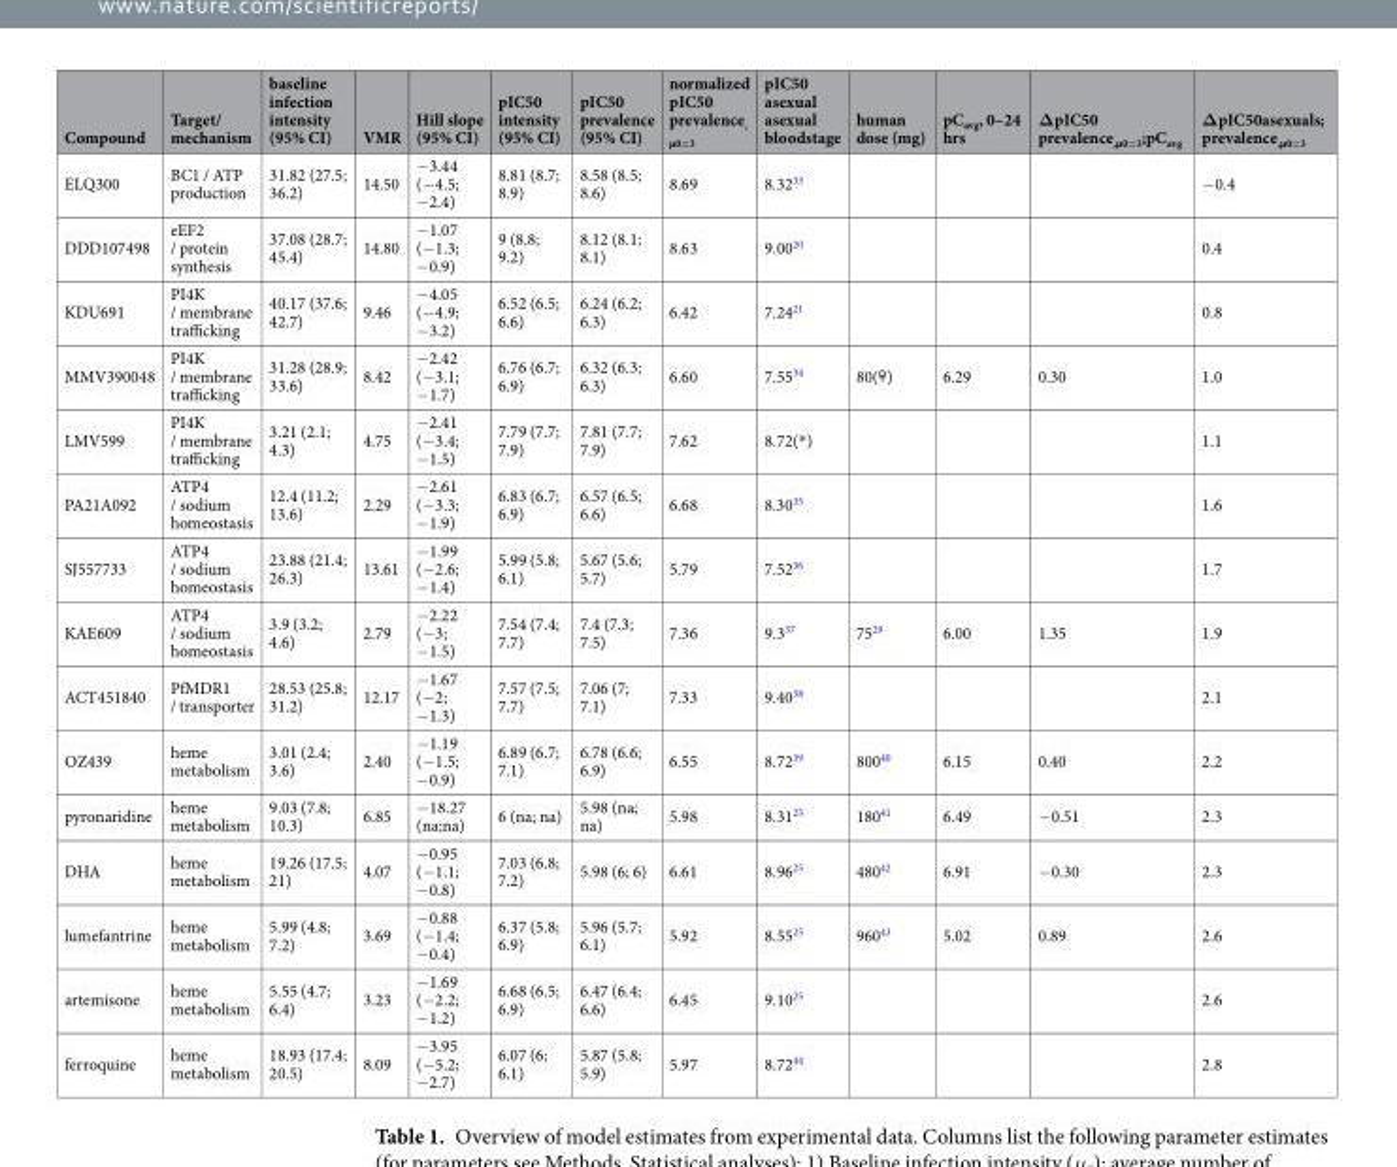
<table><thead><tr><td>Compound</td><td>Target/ mechanism</td><td>baseline infection intensity (95% CI)</td><td>VMR</td><td>Hill slope (95% CI)</td><td>pIC50 intensity (95% CI)</td><td>pIC50 prevalence (95% CI)</td><td>normalized pIC50 prevalence<sub>, µ0=3</sub></td><td>pIC50 asexual asexual bloodstage</td><td>human dose (mg)</td><td>pC<sub>avg</sub>, 0–24 hrs</td><td>ΔpIC50 prevalence<sub>,µ0=3</sub>;pC<sub>avg</sub></td><td>ΔpIC50asexuals; prevalence<sub>,µ0=3</sub></td></tr></thead><tbody><tr><td>ELQ300</td><td>BC1 / ATP production</td><td>31.82 (27.5; 36.2)</td><td>14.50</td><td>−3.44 (−4.5; −2.4)</td><td>8.81 (8.7; 8.9)</td><td>8.58 (8.5; 8.6)</td><td>8.69</td><td>8.32<sup>33</sup></td><td></td><td></td><td></td><td>−0.4</td></tr><tr><td>DDD107498</td><td>eEF2 / protein synthesis</td><td>37.08 (28.7; 45.4)</td><td>14.80</td><td>−1.07 (−1.3; −0.9)</td><td>9 (8.8; 9.2)</td><td>8.12 (8.1; 8.1)</td><td>8.63</td><td>9.00<sup>20</sup></td><td></td><td></td><td></td><td>0.4</td></tr><tr><td>KDU691</td><td>PI4K / membrane trafficking</td><td>40.17 (37.6; 42.7)</td><td>9.46</td><td>−4.05 (−4.9; −3.2)</td><td>6.52 (6.5; 6.6)</td><td>6.24 (6.2; 6.3)</td><td>6.42</td><td>7.24<sup>21</sup></td><td></td><td></td><td></td><td>0.8</td></tr><tr><td>MMV390048</td><td>PI4K / membrane trafficking</td><td>31.28 (28.9; 33.6)</td><td>8.42</td><td>−2.42 (−3.1; −1.7)</td><td>6.76 (6.7; 6.9)</td><td>6.32 (6.3; 6.3)</td><td>6.60</td><td>7.55<sup>34</sup></td><td>80(☥)</td><td>6.29</td><td>0.30</td><td>1.0</td></tr><tr><td>LMV599</td><td>PI4K / membrane trafficking</td><td>3.21 (2.1; 4.3)</td><td>4.75</td><td>−2.41 (−3.4; −1.5)</td><td>7.79 (7.7; 7.9)</td><td>7.81 (7.7; 7.9)</td><td>7.62</td><td>8.72(*)</td><td></td><td></td><td></td><td>1.1</td></tr><tr><td>PA21A092</td><td>ATP4 / sodium homeostasis</td><td>12.4 (11.2; 13.6)</td><td>2.29</td><td>−2.61 (−3.3; −1.9)</td><td>6.83 (6.7; 6.9)</td><td>6.57 (6.5; 6.6)</td><td>6.68</td><td>8.30<sup>35</sup></td><td></td><td></td><td></td><td>1.6</td></tr><tr><td>SJ557733</td><td>ATP4 / sodium homeostasis</td><td>23.88 (21.4; 26.3)</td><td>13.61</td><td>−1.99 (−2.6; −1.4)</td><td>5.99 (5.8; 6.1)</td><td>5.67 (5.6; 5.7)</td><td>5.79</td><td>7.52<sup>36</sup></td><td></td><td></td><td></td><td>1.7</td></tr><tr><td>KAE609</td><td>ATP4 / sodium homeostasis</td><td>3.9 (3.2; 4.6)</td><td>2.79</td><td>−2.22 (−3; −1.5)</td><td>7.54 (7.4; 7.7)</td><td>7.4 (7.3; 7.5)</td><td>7.36</td><td>9.3<sup>37</sup></td><td>75<sup>29</sup></td><td>6.00</td><td>1.35</td><td>1.9</td></tr><tr><td>ACT451840</td><td>PfMDR1 / transporter</td><td>28.53 (25.8; 31.2)</td><td>12.17</td><td>−1.67 (−2; −1.3)</td><td>7.57 (7.5; 7.7)</td><td>7.06 (7; 7.1)</td><td>7.33</td><td>9.40<sup>38</sup></td><td></td><td></td><td></td><td>2.1</td></tr><tr><td>OZ439</td><td>heme metabolism</td><td>3.01 (2.4; 3.6)</td><td>2.40</td><td>−1.19 (−1.5; −0.9)</td><td>6.89 (6.7; 7.1)</td><td>6.78 (6.6; 6.9)</td><td>6.55</td><td>8.72<sup>39</sup></td><td>800<sup>40</sup></td><td>6.15</td><td>0.40</td><td>2.2</td></tr><tr><td>pyronaridine</td><td>heme metabolism</td><td>9.03 (7.8; 10.3)</td><td>6.85</td><td>−18.27 (na;na)</td><td>6 (na; na)</td><td>5.98 (na; na)</td><td>5.98</td><td>8.31<sup>25</sup></td><td>180<sup>41</sup></td><td>6.49</td><td>−0.51</td><td>2.3</td></tr><tr><td>DHA</td><td>heme metabolism</td><td>19.26 (17.5; 21)</td><td>4.07</td><td>−0.95 (−1.1; −0.8)</td><td>7.03 (6.8; 7.2)</td><td>5.98 (6; 6)</td><td>6.61</td><td>8.96<sup>25</sup></td><td>480<sup>42</sup></td><td>6.91</td><td>−0.30</td><td>2.3</td></tr><tr><td>lumefantrine</td><td>heme metabolism</td><td>5.99 (4.8; 7.2)</td><td>3.69</td><td>−0.88 (−1.4; −0.4)</td><td>6.37 (5.8; 6.9)</td><td>5.96 (5.7; 6.1)</td><td>5.92</td><td>8.55<sup>25</sup></td><td>960<sup>43</sup></td><td>5.02</td><td>0.89</td><td>2.6</td></tr><tr><td>artemisone</td><td>heme metabolism</td><td>5.55 (4.7; 6.4)</td><td>3.23</td><td>−1.69 (−2.2; −1.2)</td><td>6.68 (6.5; 6.9)</td><td>6.47 (6.4; 6.6)</td><td>6.45</td><td>9.10<sup>25</sup></td><td></td><td></td><td></td><td>2.6</td></tr><tr><td>ferroquine</td><td>heme metabolism</td><td>18.93 (17.4; 20.5)</td><td>8.09</td><td>−3.95 (−5.2; −2.7)</td><td>6.07 (6; 6.1)</td><td>5.87 (5.8; 5.9)</td><td>5.97</td><td>8.72<sup>44</sup></td><td></td><td></td><td></td><td>2.8</td></tr></tbody></table>